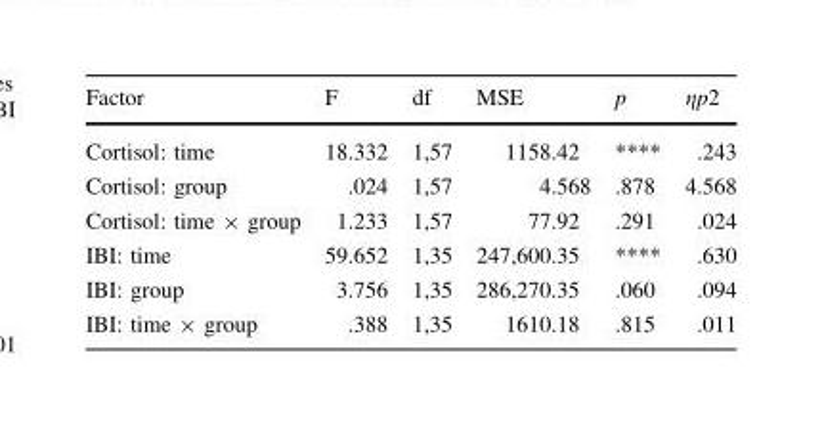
<table><thead><tr><td>Factor</td><td>F</td><td>df</td><td>MSE</td><td>p</td><td>ηp2</td></tr></thead><tbody><tr><td>Cortisol: time</td><td>18.332</td><td>1,57</td><td>1158.42</td><td>****</td><td>.243</td></tr><tr><td>Cortisol: group</td><td>.024</td><td>1,57</td><td>4.568</td><td>.878</td><td>4.568</td></tr><tr><td>Cortisol: time × group</td><td>1.233</td><td>1,57</td><td>77.92</td><td>.291</td><td>.024</td></tr><tr><td>IBI: time</td><td>59.652</td><td>1,35</td><td>247,600.35</td><td>****</td><td>.630</td></tr><tr><td>IBI: group</td><td>3.756</td><td>1,35</td><td>286,270.35</td><td>.060</td><td>.094</td></tr><tr><td>IBI: time × group</td><td>.388</td><td>1,35</td><td>1610.18</td><td>.815</td><td>.011</td></tr></tbody></table>